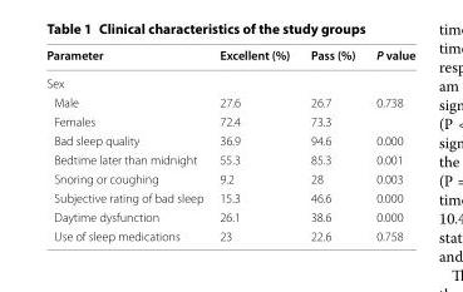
<table><thead><tr><td>Parameter</td><td>Excellent (%)</td><td>Pass (%)</td><td>P value</td></tr></thead><tbody><tr><td colspan="4">Sex</td></tr><tr><td>Male</td><td>27.6</td><td>26.7</td><td rowspan="2">0.738</td></tr><tr><td>Females</td><td>72.4</td><td>73.3</td></tr><tr><td>Bad sleep quality</td><td>36.9</td><td>94.6</td><td>0.000</td></tr><tr><td>Bedtime later than midnight</td><td>55.3</td><td>85.3</td><td>0.001</td></tr><tr><td>Snoring or coughing</td><td>9.2</td><td>28</td><td>0.003</td></tr><tr><td>Subjective rating of bad sleep</td><td>15.3</td><td>46.6</td><td>0.000</td></tr><tr><td>Daytime dysfunction</td><td>26.1</td><td>38.6</td><td>0.000</td></tr><tr><td>Use of sleep medications</td><td>23</td><td>22.6</td><td>0.758</td></tr></tbody></table>